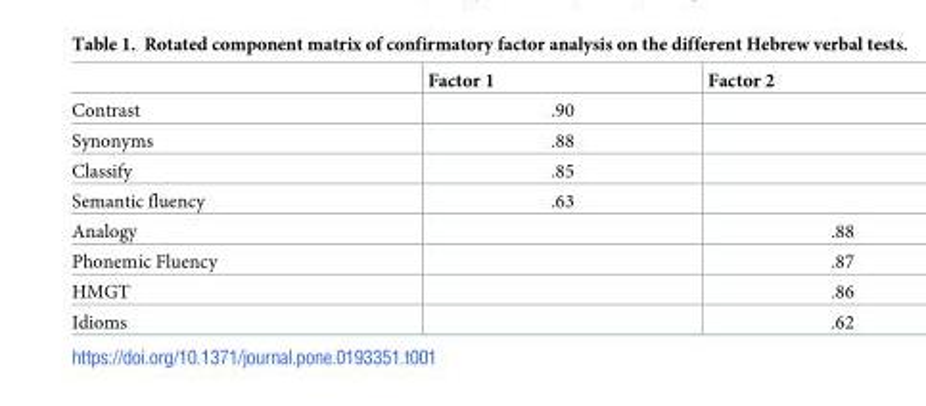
<table><thead><tr><td></td><td>Factor 1</td><td>Factor 2</td></tr></thead><tbody><tr><td>Contrast</td><td>.90</td><td></td></tr><tr><td>Synonyms</td><td>.88</td><td></td></tr><tr><td>Classify</td><td>.85</td><td></td></tr><tr><td>Semantic fluency</td><td>.63</td><td></td></tr><tr><td>Analogy</td><td></td><td>.88</td></tr><tr><td>Phonemic Fluency</td><td></td><td>.87</td></tr><tr><td>HMGT</td><td></td><td>.86</td></tr><tr><td>Idioms</td><td></td><td>.62</td></tr></tbody></table>